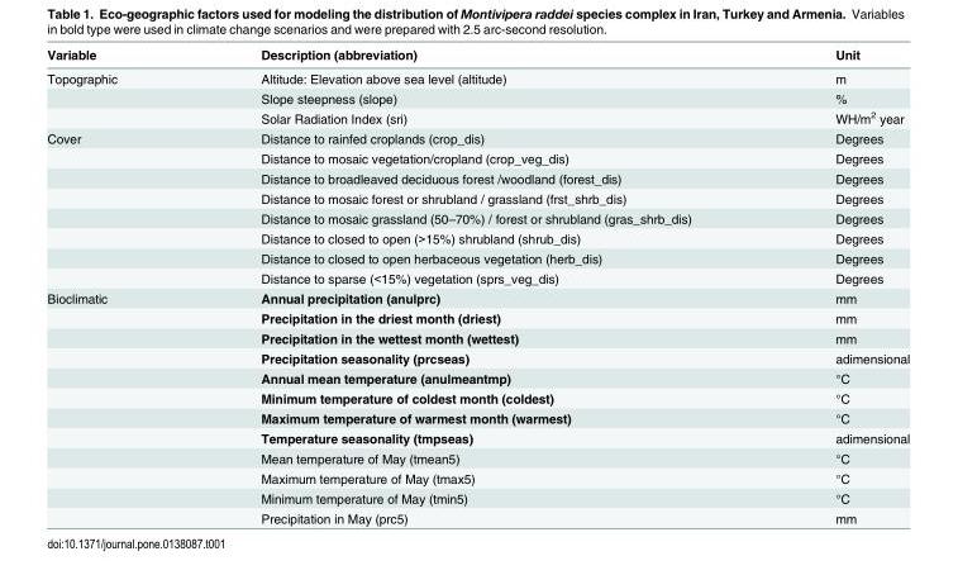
<table><thead><tr><td>Variable</td><td>Description (abbreviation)</td><td>Unit</td></tr></thead><tbody><tr><td rowspan="3">Topographic</td><td>Altitude: Elevation above sea level (altitude)</td><td>m</td></tr><tr><td>Slope steepness (slope)</td><td>%</td></tr><tr><td>Solar Radiation Index (sri)</td><td>WH/m<sup>2</sup> year</td></tr><tr><td rowspan="8">Cover</td><td>Distance to rainfed croplands (crop_dis)</td><td>Degrees</td></tr><tr><td>Distance to mosaic vegetation/cropland (crop_veg_dis)</td><td>Degrees</td></tr><tr><td>Distance to broadleaved deciduous forest /woodland (forest_dis)</td><td>Degrees</td></tr><tr><td>Distance to mosaic forest or shrubland / grassland (frst_shrb_dis)</td><td>Degrees</td></tr><tr><td>Distance to mosaic grassland (50–70%) / forest or shrubland (gras_shrb_dis)</td><td>Degrees</td></tr><tr><td>Distance to closed to open (&gt;15%) shrubland (shrub_dis)</td><td>Degrees</td></tr><tr><td>Distance to closed to open herbaceous vegetation (herb_dis)</td><td>Degrees</td></tr><tr><td>Distance to sparse (&lt;15%) vegetation (sprs_veg_dis)</td><td>Degrees</td></tr><tr><td rowspan="12">Bioclimatic</td><td>Annual precipitation (anulprc)</td><td>mm</td></tr><tr><td>Precipitation in the driest month (driest)</td><td>mm</td></tr><tr><td>Precipitation in the wettest month (wettest)</td><td>mm</td></tr><tr><td>Precipitation seasonality (prcseas)</td><td>adimensional</td></tr><tr><td>Annual mean temperature (anulmeantmp)</td><td>°C</td></tr><tr><td>Minimum temperature of coldest month (coldest)</td><td>°C</td></tr><tr><td>Maximum temperature of warmest month (warmest)</td><td>°C</td></tr><tr><td>Temperature seasonality (tmpseas)</td><td>adimensional</td></tr><tr><td>Mean temperature of May (tmean5)</td><td>°C</td></tr><tr><td>Maximum temperature of May (tmax5)</td><td>°C</td></tr><tr><td>Minimum temperature of May (tmin5)</td><td>°C</td></tr><tr><td>Precipitation in May (prc5)</td><td>mm</td></tr></tbody></table>